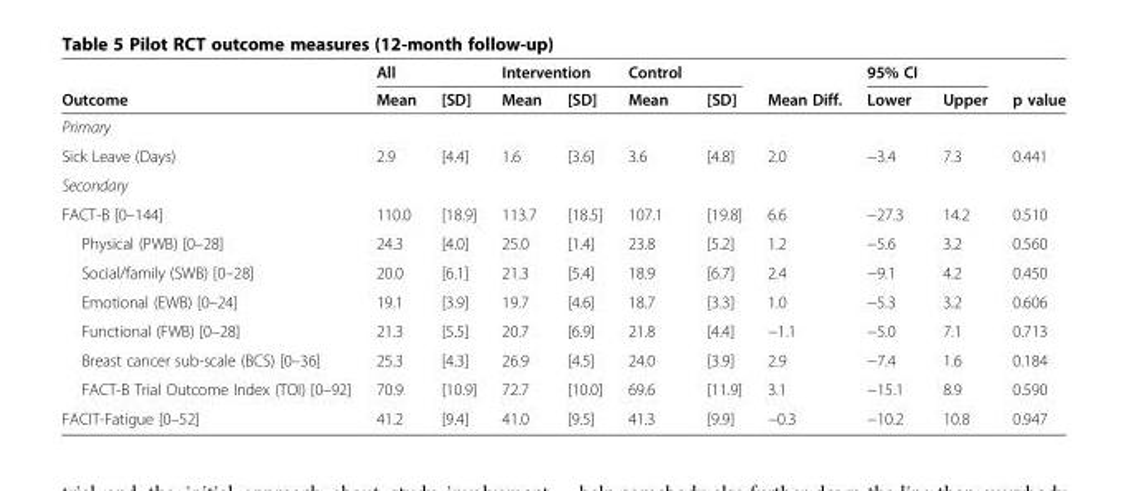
<table><thead><tr><td rowspan="2">Outcome</td><td rowspan="2">All Mean</td><td rowspan="2">[SD]</td><td colspan="2">Intervention</td><td rowspan="2">Control Mean</td><td rowspan="2">[SD]</td><td rowspan="2">Mean Diff.</td><td rowspan="2">95% CI Lower</td><td rowspan="2">Upper</td><td rowspan="2">p value</td></tr><tr><td>Mean</td><td>[SD]</td></tr></thead><tbody><tr><td colspan="11">Primary</td></tr><tr><td>Sick Leave (Days)</td><td>2.9</td><td>[4.4]</td><td>1.6</td><td>[3.6]</td><td>3.6</td><td>[4.8]</td><td>2.0</td><td>−3.4</td><td>7.3</td><td>0.441</td></tr><tr><td colspan="11">Secondary</td></tr><tr><td>FACT-B [0–144]</td><td>110.0</td><td>[18.9]</td><td>113.7</td><td>[18.5]</td><td>107.1</td><td>[19.8]</td><td>6.6</td><td>−27.3</td><td>14.2</td><td>0.510</td></tr><tr><td>Physical (PWB) [0–28]</td><td>24.3</td><td>[4.0]</td><td>25.0</td><td>[1.4]</td><td>23.8</td><td>[5.2]</td><td>1.2</td><td>−5.6</td><td>3.2</td><td>0.560</td></tr><tr><td>Social/family (SWB) [0–28]</td><td>20.0</td><td>[6.1]</td><td>21.3</td><td>[5.4]</td><td>18.9</td><td>[6.7]</td><td>2.4</td><td>−9.1</td><td>4.2</td><td>0.450</td></tr><tr><td>Emotional (EWB) [0–24]</td><td>19.1</td><td>[3.9]</td><td>19.7</td><td>[4.6]</td><td>18.7</td><td>[3.3]</td><td>1.0</td><td>−5.3</td><td>3.2</td><td>0.606</td></tr><tr><td>Functional (FWB) [0–28]</td><td>21.3</td><td>[5.5]</td><td>20.7</td><td>[6.9]</td><td>21.8</td><td>[4.4]</td><td>−1.1</td><td>−5.0</td><td>7.1</td><td>0.713</td></tr><tr><td>Breast cancer sub-scale (BCS) [0–36]</td><td>25.3</td><td>[4.3]</td><td>26.9</td><td>[4.5]</td><td>24.0</td><td>[3.9]</td><td>2.9</td><td>−7.4</td><td>1.6</td><td>0.184</td></tr><tr><td>FACT-B Trial Outcome Index (TOI) [0–92]</td><td>70.9</td><td>[10.9]</td><td>72.7</td><td>[10.0]</td><td>69.6</td><td>[11.9]</td><td>3.1</td><td>−15.1</td><td>8.9</td><td>0.590</td></tr><tr><td>FACIT-Fatigue [0–52]</td><td>41.2</td><td>[9.4]</td><td>41.0</td><td>[9.5]</td><td>41.3</td><td>[9.9]</td><td>−0.3</td><td>−10.2</td><td>10.8</td><td>0.947</td></tr></tbody></table>